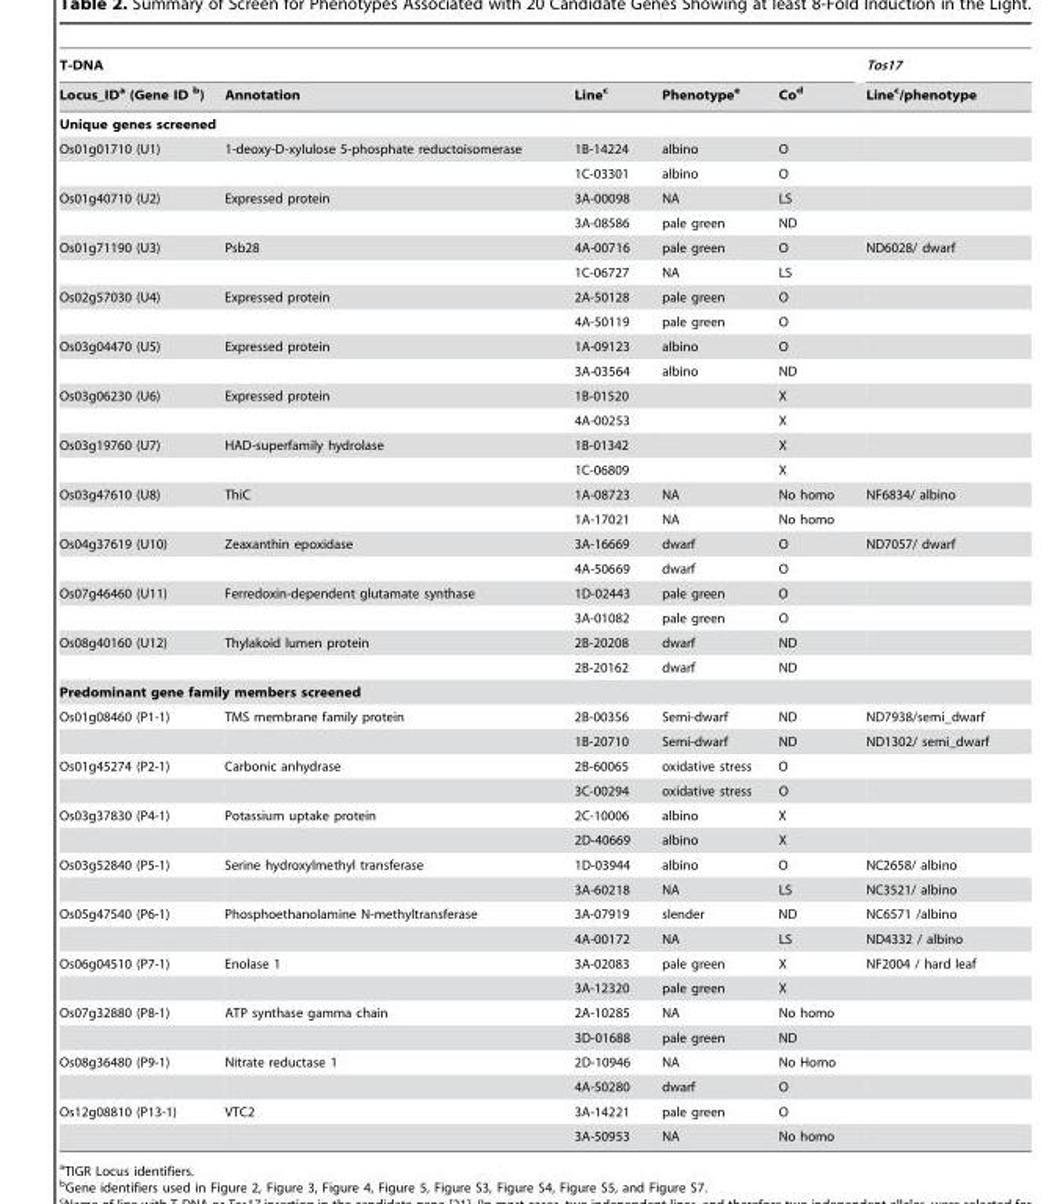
<table><thead><tr><td colspan="5">T-DNA</td><td rowspan="2">Tos17 Line<sup>c</sup>/phenotype</td></tr><tr><td>Locus_ID<sup>a</sup> (Gene ID b)</td><td>Annotation</td><td>Line<sup>c</sup></td><td>Phenotype<sup>e</sup></td><td>Co<sup>d</sup></td></tr></thead><tbody><tr><td colspan="6">Unique genes screened</td></tr><tr><td rowspan="2">Os01g01710 (U1)</td><td>1-deoxy-D-xylulose 5-phosphate reductoisomerase</td><td>1B-14224</td><td>albino</td><td>O</td><td></td></tr><tr><td></td><td>1C-03301</td><td>albino</td><td>O</td><td></td></tr><tr><td rowspan="2">Os01g40710 (U2)</td><td>Expressed protein</td><td>3A-00098</td><td>NA</td><td>LS</td><td></td></tr><tr><td></td><td>3A-08586</td><td>pale green</td><td>ND</td><td></td></tr><tr><td rowspan="2">Os01g71190 (U3)</td><td>Psb28</td><td>4A-00716</td><td>pale green</td><td>O</td><td>ND6028/ dwarf</td></tr><tr><td></td><td>1C-06727</td><td>NA</td><td>LS</td><td></td></tr><tr><td rowspan="2">Os02g57030 (U4)</td><td>Expressed protein</td><td>2A-50128</td><td>pale green</td><td>O</td><td></td></tr><tr><td></td><td>4A-50119</td><td>pale green</td><td>O</td><td></td></tr><tr><td rowspan="2">Os03g04470 (U5)</td><td>Expressed protein</td><td>1A-09123</td><td>albino</td><td>O</td><td></td></tr><tr><td></td><td>3A-03564</td><td>albino</td><td>ND</td><td></td></tr><tr><td rowspan="2">Os03g06230 (U6)</td><td>Expressed protein</td><td>1B-01520</td><td></td><td>X</td><td></td></tr><tr><td></td><td>4A-00253</td><td></td><td>X</td><td></td></tr><tr><td rowspan="2">Os03g19760 (U7)</td><td>HAD-superfamily hydrolase</td><td>1B-01342</td><td></td><td>X</td><td></td></tr><tr><td></td><td>1C-06809</td><td></td><td>X</td><td></td></tr><tr><td rowspan="2">Os03g47610 (U8)</td><td>ThiC</td><td>1A-08723</td><td>NA</td><td>No homo</td><td>NF6834/ albino</td></tr><tr><td></td><td>1A-17021</td><td>NA</td><td>No homo</td><td></td></tr><tr><td rowspan="2">Os04g37619 (U10)</td><td>Zeaxanthin epoxidase</td><td>3A-16669</td><td>dwarf</td><td>O</td><td>ND7057/ dwarf</td></tr><tr><td></td><td>4A-50669</td><td>dwarf</td><td>O</td><td></td></tr><tr><td rowspan="2">Os07g46460 (U11)</td><td>Ferredoxin-dependent glutamate synthase</td><td>1D-02443</td><td>pale green</td><td>O</td><td></td></tr><tr><td></td><td>3A-01082</td><td>pale green</td><td>O</td><td></td></tr><tr><td rowspan="2">Os08g40160 (U12)</td><td>Thylakoid lumen protein</td><td>2B-20208</td><td>dwarf</td><td>ND</td><td></td></tr><tr><td></td><td>2B-20162</td><td>dwarf</td><td>ND</td><td></td></tr><tr><td colspan="6">Predominant gene family members screened</td></tr><tr><td rowspan="2">Os01g08460 (P1-1)</td><td>TMS membrane family protein</td><td>2B-00356</td><td>Semi-dwarf</td><td>ND</td><td>ND7938/semi_dwarf</td></tr><tr><td></td><td>1B-20710</td><td>Semi-dwarf</td><td>ND</td><td>ND1302/ semi_dwarf</td></tr><tr><td rowspan="2">Os01g45274 (P2-1)</td><td>Carbonic anhydrase</td><td>2B-60065</td><td>oxidative stress</td><td>O</td><td></td></tr><tr><td></td><td>3C-00294</td><td>oxidative stress</td><td>O</td><td></td></tr><tr><td rowspan="2">Os03g37830 (P4-1)</td><td>Potassium uptake protein</td><td>2C-10006</td><td>albino</td><td>X</td><td></td></tr><tr><td></td><td>2D-40669</td><td>albino</td><td>X</td><td></td></tr><tr><td rowspan="2">Os03g52840 (P5-1)</td><td>Serine hydroxylmethyl transferase</td><td>1D-03944</td><td>albino</td><td>O</td><td>NC2658/ albino</td></tr><tr><td></td><td>3A-60218</td><td>NA</td><td>LS</td><td>NC3521/ albino</td></tr><tr><td rowspan="2">Os05g47540 (P6-1)</td><td>Phosphoethanolamine N-methyltransferase</td><td>3A-07919</td><td>slender</td><td>ND</td><td>NC6571 /albino</td></tr><tr><td></td><td>4A-00172</td><td>NA</td><td>LS</td><td>ND4332 / albino</td></tr><tr><td rowspan="2">Os06g04510 (P7-1)</td><td>Enolase 1</td><td>3A-02083</td><td>pale green</td><td>X</td><td>NF2004 / hard leaf</td></tr><tr><td></td><td>3A-12320</td><td>pale green</td><td>X</td><td></td></tr><tr><td rowspan="2">Os07g32880 (P8-1)</td><td>ATP synthase gamma chain</td><td>2A-10285</td><td>NA</td><td>No homo</td><td></td></tr><tr><td></td><td>3D-01688</td><td>pale green</td><td>ND</td><td></td></tr><tr><td rowspan="2">Os08g36480 (P9-1)</td><td>Nitrate reductase 1</td><td>2D-10946</td><td>NA</td><td>No Homo</td><td></td></tr><tr><td></td><td>4A-50280</td><td>dwarf</td><td>O</td><td></td></tr><tr><td rowspan="2">Os12g08810 (P13-1)</td><td>VTC2</td><td>3A-14221</td><td>pale green</td><td>O</td><td></td></tr><tr><td></td><td>3A-50953</td><td>NA</td><td>No homo</td><td></td></tr></tbody></table>